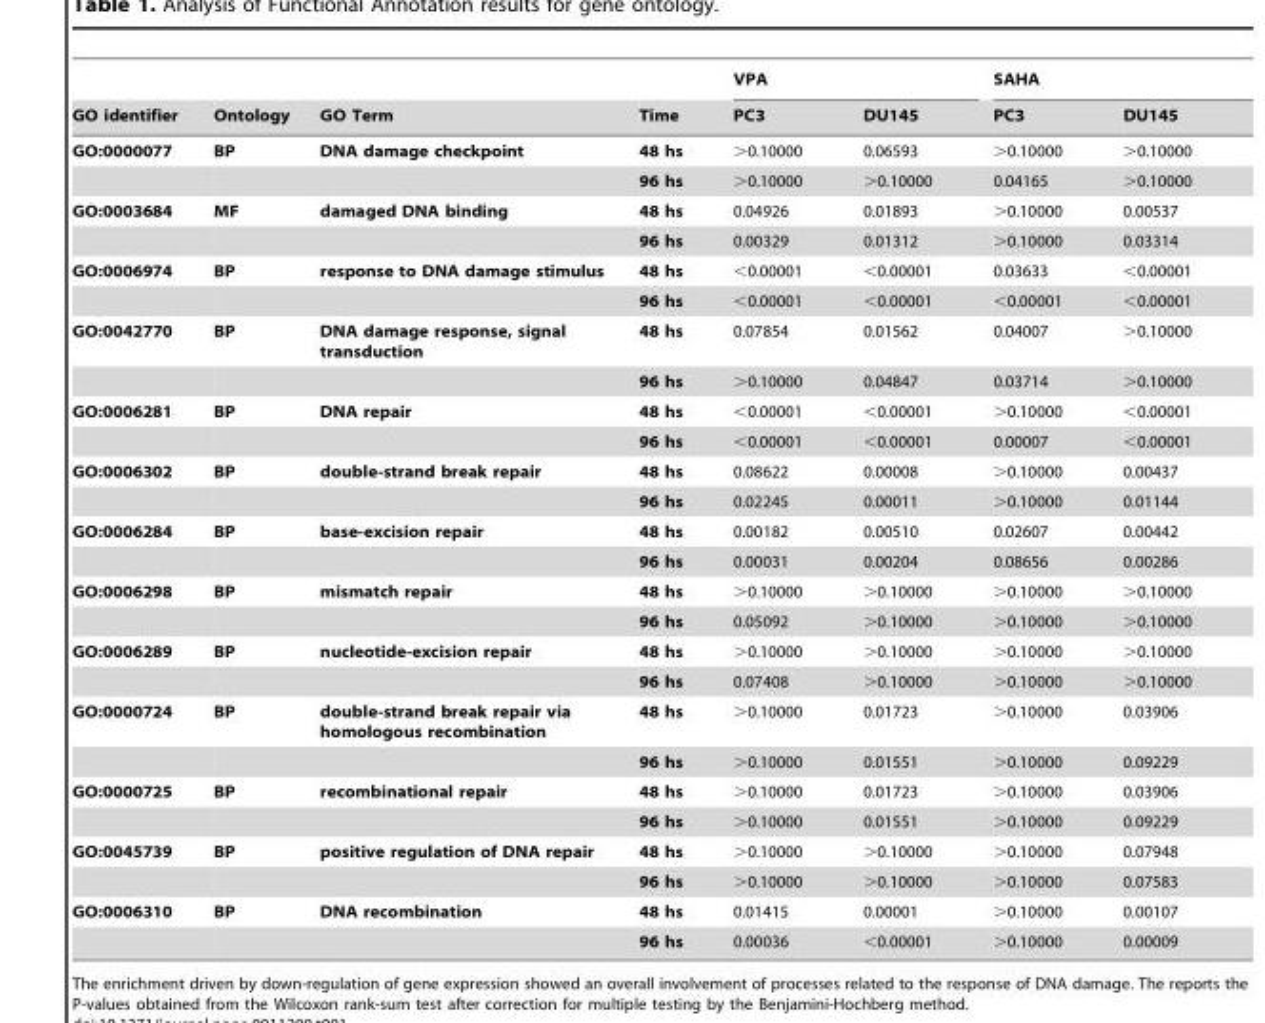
<table><thead><tr><td rowspan="2">GO identifier</td><td rowspan="2">Ontology</td><td rowspan="2">GO Term</td><td rowspan="2">Time</td><td colspan="2">VPA</td><td colspan="2">SAHA</td></tr><tr><td>PC3</td><td>DU145</td><td>PC3</td><td>DU145</td></tr></thead><tbody><tr><td rowspan="2">GO:0000077</td><td>BP</td><td>DNA damage checkpoint</td><td>48 hs</td><td>&gt;0.10000</td><td>0.06593</td><td>&gt;0.10000</td><td>&gt;0.10000</td></tr><tr><td></td><td></td><td>96 hs</td><td>&gt;0.10000</td><td>&gt;0.10000</td><td>0.04165</td><td>&gt;0.10000</td></tr><tr><td rowspan="2">GO:0003684</td><td>MF</td><td>damaged DNA binding</td><td>48 hs</td><td>0.04926</td><td>0.01893</td><td>&gt;0.10000</td><td>0.00537</td></tr><tr><td></td><td></td><td>96 hs</td><td>0.00329</td><td>0.01312</td><td>&gt;0.10000</td><td>0.03314</td></tr><tr><td rowspan="2">GO:0006974</td><td>BP</td><td>response to DNA damage stimulus</td><td>48 hs</td><td>&lt;0.00001</td><td>&lt;0.00001</td><td>0.03633</td><td>&lt;0.00001</td></tr><tr><td></td><td></td><td>96 hs</td><td>&lt;0.00001</td><td>&lt;0.00001</td><td>&lt;0.00001</td><td>&lt;0.00001</td></tr><tr><td rowspan="2">GO:0042770</td><td>BP</td><td>DNA damage response, signal transduction</td><td>48 hs</td><td>0.07854</td><td>0.01562</td><td>0.04007</td><td>&gt;0.10000</td></tr><tr><td></td><td></td><td>96 hs</td><td>&gt;0.10000</td><td>0.04847</td><td>0.03714</td><td>&gt;0.10000</td></tr><tr><td rowspan="2">GO:0006281</td><td>BP</td><td>DNA repair</td><td>48 hs</td><td>&lt;0.00001</td><td>&lt;0.00001</td><td>&gt;0.10000</td><td>&lt;0.00001</td></tr><tr><td></td><td></td><td>96 hs</td><td>&lt;0.00001</td><td>&lt;0.00001</td><td>0.00007</td><td>&lt;0.00001</td></tr><tr><td rowspan="2">GO:0006302</td><td>BP</td><td>double-strand break repair</td><td>48 hs</td><td>0.08622</td><td>0.00008</td><td>&gt;0.10000</td><td>0.00437</td></tr><tr><td></td><td></td><td>96 hs</td><td>0.02245</td><td>0.00011</td><td>&gt;0.10000</td><td>0.01144</td></tr><tr><td rowspan="2">GO:0006284</td><td>BP</td><td>base-excision repair</td><td>48 hs</td><td>0.00182</td><td>0.00510</td><td>0.02607</td><td>0.00442</td></tr><tr><td></td><td></td><td>96 hs</td><td>0.00031</td><td>0.00204</td><td>0.08656</td><td>0.00286</td></tr><tr><td rowspan="2">GO:0006298</td><td>BP</td><td>mismatch repair</td><td>48 hs</td><td>&gt;0.10000</td><td>&gt;0.10000</td><td>&gt;0.10000</td><td>&gt;0.10000</td></tr><tr><td></td><td></td><td>96 hs</td><td>0.05092</td><td>&gt;0.10000</td><td>&gt;0.10000</td><td>&gt;0.10000</td></tr><tr><td rowspan="2">GO:0006289</td><td>BP</td><td>nucleotide-excision repair</td><td>48 hs</td><td>&gt;0.10000</td><td>&gt;0.10000</td><td>&gt;0.10000</td><td>&gt;0.10000</td></tr><tr><td></td><td></td><td>96 hs</td><td>0.07408</td><td>&gt;0.10000</td><td>&gt;0.10000</td><td>&gt;0.10000</td></tr><tr><td rowspan="2">GO:0000724</td><td>BP</td><td>double-strand break repair via homologous recombination</td><td>48 hs</td><td>&gt;0.10000</td><td>0.01723</td><td>&gt;0.10000</td><td>0.03906</td></tr><tr><td></td><td></td><td>96 hs</td><td>&gt;0.10000</td><td>0.01551</td><td>&gt;0.10000</td><td>0.09229</td></tr><tr><td rowspan="2">GO:0000725</td><td>BP</td><td>recombinational repair</td><td>48 hs</td><td>&gt;0.10000</td><td>0.01723</td><td>&gt;0.10000</td><td>0.03906</td></tr><tr><td></td><td></td><td>96 hs</td><td>&gt;0.10000</td><td>0.01551</td><td>&gt;0.10000</td><td>0.09229</td></tr><tr><td rowspan="2">GO:0045739</td><td>BP</td><td>positive regulation of DNA repair</td><td>48 hs</td><td>&gt;0.10000</td><td>&gt;0.10000</td><td>&gt;0.10000</td><td>0.07948</td></tr><tr><td></td><td></td><td>96 hs</td><td>&gt;0.10000</td><td>&gt;0.10000</td><td>&gt;0.10000</td><td>0.07583</td></tr><tr><td rowspan="2">GO:0006310</td><td>BP</td><td>DNA recombination</td><td>48 hs</td><td>0.01415</td><td>0.00001</td><td>&gt;0.10000</td><td>0.00107</td></tr><tr><td></td><td></td><td>96 hs</td><td>0.00036</td><td>&lt;0.00001</td><td>&gt;0.10000</td><td>0.00009</td></tr></tbody></table>